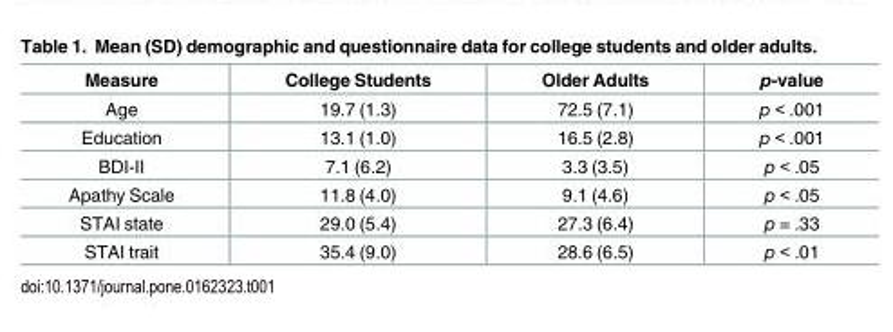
<table><thead><tr><td>Measure</td><td>College Students</td><td>Older Adults</td><td>p-value</td></tr></thead><tbody><tr><td>Age</td><td>19.7 (1.3)</td><td>72.5 (7.1)</td><td>p &lt; .001</td></tr><tr><td>Education</td><td>13.1 (1.0)</td><td>16.5 (2.8)</td><td>p &lt; .001</td></tr><tr><td>BDI-II</td><td>7.1 (6.2)</td><td>3.3 (3.5)</td><td>p &lt; .05</td></tr><tr><td>Apathy Scale</td><td>11.8 (4.0)</td><td>9.1 (4.6)</td><td>p &lt; .05</td></tr><tr><td>STAI state</td><td>29.0 (5.4)</td><td>27.3 (6.4)</td><td>p = .33</td></tr><tr><td>STAI trait</td><td>35.4 (9.0)</td><td>28.6 (6.5)</td><td>p &lt; .01</td></tr></tbody></table>